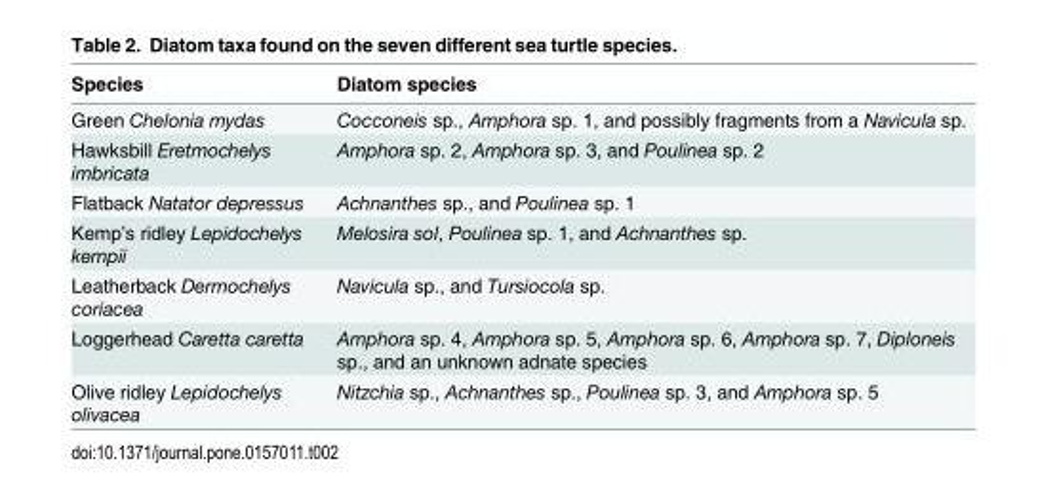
<table><thead><tr><td>Species</td><td>Diatom species</td></tr></thead><tbody><tr><td>Green Chelonia mydas</td><td>Cocconeis sp., Amphora sp. 1, and possibly fragments from a Navicula sp.</td></tr><tr><td>Hawksbill Eretmochelys imbricata</td><td>Amphora sp. 2, Amphora sp. 3, and Poulinea sp. 2</td></tr><tr><td>Flatback Natator depressus</td><td>Achnanthes sp., and Poulinea sp. 1</td></tr><tr><td>Kemp’s ridley Lepidochelys kempii</td><td>Melosira sol, Poulinea sp. 1, and Achnanthes sp.</td></tr><tr><td>Leatherback Dermochelys coriacea</td><td>Navicula sp., and Tursiocola sp.</td></tr><tr><td>Loggerhead Caretta caretta</td><td>Amphora sp. 4, Amphora sp. 5, Amphora sp. 6, Amphora sp. 7, Diploneis sp., and an unknown adnate species</td></tr><tr><td>Olive ridley Lepidochelys olivacea</td><td>Nitzchia sp., Achnanthes sp., Poulinea sp. 3, and Amphora sp. 5</td></tr></tbody></table>